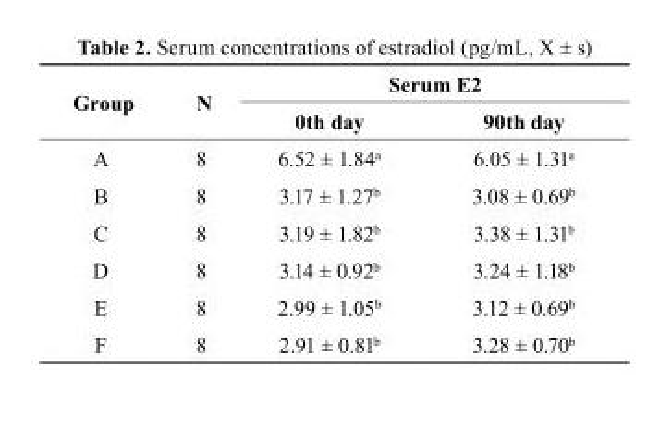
<table><thead><tr><td rowspan="2">Group</td><td rowspan="2">N</td><td colspan="2">serum E2</td></tr><tr><td>0<sup>th</sup> day</td><td>90<sup>th</sup> day</td></tr></thead><tbody><tr><td>A</td><td>8</td><td>6.52 ± 1.84<sup>a</sup></td><td>6.05 ± 1.31<sup>a</sup></td></tr><tr><td>B</td><td>8</td><td>3.17 ± 1.27<sup>b</sup></td><td>3.08 ± 0.69<sup>b</sup></td></tr><tr><td>C</td><td>8</td><td>3.19 ± 1.82<sup>b</sup></td><td>3.38 ± 1.31<sup>b</sup></td></tr><tr><td>D</td><td>8</td><td>3.14 ± 0.92<sup>b</sup></td><td>3.24 ± 1.18<sup>b</sup></td></tr><tr><td>E</td><td>8</td><td>2.99 ± 1.05<sup>b</sup></td><td>3.12 ± 0.69<sup>b</sup></td></tr><tr><td>F</td><td>8</td><td>2.91 ± 0.81<sup>b</sup></td><td>3.28 ± 0.70<sup>b</sup></td></tr></tbody></table>